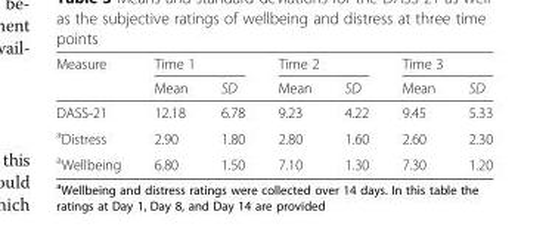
<table><thead><tr><td rowspan="2">Measure</td><td colspan="2">Time 1</td><td colspan="2">Time 2</td><td colspan="2">Time 3</td></tr><tr><td>Mean</td><td>SD</td><td>Mean</td><td>SD</td><td>Mean</td><td>SD</td></tr></thead><tbody><tr><td>DASS-21</td><td>12.18</td><td>6.78</td><td>9.23</td><td>4.22</td><td>9.45</td><td>5.33</td></tr><tr><td><sup>a</sup>Distress</td><td>2.90</td><td>1.80</td><td>2.80</td><td>1.60</td><td>2.60</td><td>2.30</td></tr><tr><td><sup>a</sup>Wellbeing</td><td>6.80</td><td>1.50</td><td>7.10</td><td>1.30</td><td>7.30</td><td>1.20</td></tr></tbody></table>